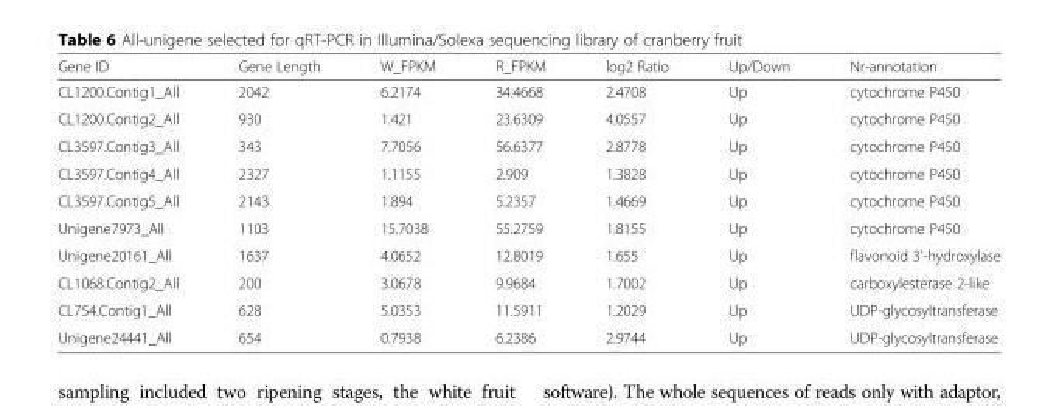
<table><thead><tr><td>Gene ID</td><td>Gene Length</td><td>W_FPKM</td><td>R_FPKM</td><td>log2 Ratio</td><td>Up/Down</td><td>Nr-annotation</td></tr></thead><tbody><tr><td>CL1200.Contig1_All</td><td>2042</td><td>6.2174</td><td>34.4668</td><td>2.4708</td><td>Up</td><td>cytochrome P450</td></tr><tr><td>CL1200.Contig2_All</td><td>930</td><td>1.421</td><td>23.6309</td><td>4.0557</td><td>Up</td><td>cytochrome P450</td></tr><tr><td>CL3597.Contig3_All</td><td>343</td><td>7.7056</td><td>56.6377</td><td>2.8778</td><td>Up</td><td>cytochrome P450</td></tr><tr><td>CL3597.Contig4_All</td><td>2327</td><td>1.1155</td><td>2.909</td><td>1.3828</td><td>Up</td><td>cytochrome P450</td></tr><tr><td>CL3597.Contig5_All</td><td>2143</td><td>1.894</td><td>5.2357</td><td>1.4669</td><td>Up</td><td>cytochrome P450</td></tr><tr><td>Unigene7973_All</td><td>1103</td><td>15.7038</td><td>55.2759</td><td>1.8155</td><td>Up</td><td>cytochrome P450</td></tr><tr><td>Unigene20161_All</td><td>1637</td><td>4.0652</td><td>12.8019</td><td>1.655</td><td>Up</td><td>flavonoid 3&#x27;-hydroxylase</td></tr><tr><td>CL1068.Contig2_All</td><td>200</td><td>3.0678</td><td>9.9684</td><td>1.7002</td><td>Up</td><td>carboxylesterase 2-like</td></tr><tr><td>CL754.Contig1_All</td><td>628</td><td>5.0353</td><td>11.5911</td><td>1.2029</td><td>Up</td><td>UDP-glycosyltransferase</td></tr><tr><td>Unigene24441_All</td><td>654</td><td>0.7938</td><td>6.2386</td><td>2.9744</td><td>Up</td><td>UDP-glycosyltransferase</td></tr></tbody></table>